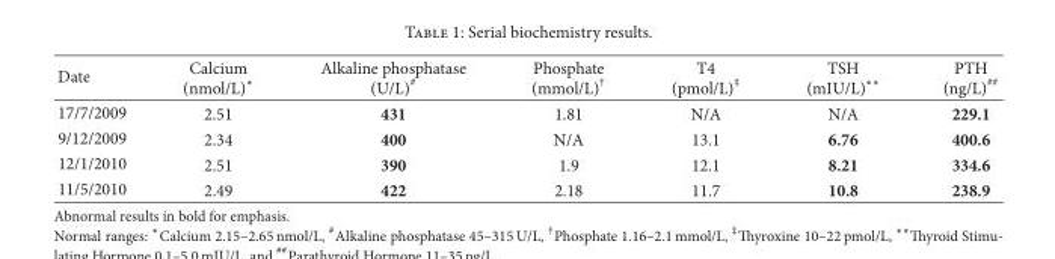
<table><thead><tr><td>Date</td><td>Calcium (nmol/L)∗</td><td>Alkaline phosphatase (U/L)<sup>#</sup></td><td>Phosphate (mmol/L)<sup>†</sup></td><td>T4 (pmol/L)<sup>‡</sup></td><td>TSH (mIU/L)∗∗</td><td>PTH (ng/L)<sup>##</sup></td></tr></thead><tbody><tr><td>17/7/2009</td><td>2.51</td><td>431</td><td>1.81</td><td>N/A</td><td>N/A</td><td>229.1</td></tr><tr><td>9/12/2009</td><td>2.34</td><td>400</td><td>N/A</td><td>13.1</td><td>6.76</td><td>400.6</td></tr><tr><td>12/1/2010</td><td>2.51</td><td>390</td><td>1.9</td><td>12.1</td><td>8.21</td><td>334.6</td></tr><tr><td>11/5/2010</td><td>2.49</td><td>422</td><td>2.18</td><td>11.7</td><td>10.8</td><td>238.9</td></tr></tbody></table>